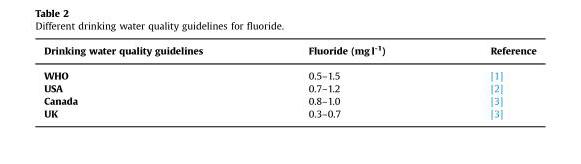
<table><thead><tr><td>Drinking water quality guidelines</td><td>Fluoride (mg l<sup>-1</sup>)</td><td>Reference</td></tr></thead><tbody><tr><td>WHO</td><td>0.5–1.5</td><td>[1]</td></tr><tr><td>USA</td><td>0.7–1.2</td><td>[2]</td></tr><tr><td>Canada</td><td>0.8–1.0</td><td>[3]</td></tr><tr><td>UK</td><td>0.3–0.7</td><td>[3]</td></tr></tbody></table>